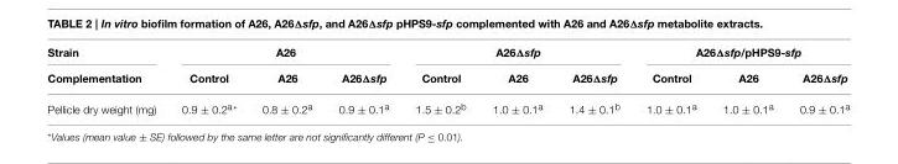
<table><thead><tr><td rowspan="2">Strain Complementation</td><td colspan="3">A26</td><td colspan="3">A26Δsfp</td><td colspan="3">A26Δsfp/pHPS9-sfp</td></tr><tr><td>Control</td><td>A26</td><td>A26Δsfp</td><td>Control</td><td>A26</td><td>A26Δsfp</td><td>Control</td><td>A26</td><td>A26Δsfp</td></tr></thead><tbody><tr><td>Pellicle dry weight (mg)</td><td>0.9 ± 0.2<sup>a*</sup></td><td>0.8 ± 0.2<sup>a</sup></td><td>0.9 ± 0.1<sup>a</sup></td><td>1.5 ± 0.2<sup>b</sup></td><td>1.0 ± 0.1<sup>a</sup></td><td>1.4 ± 0.1<sup>b</sup></td><td>1.0 ± 0.1<sup>a</sup></td><td>1.0 ± 0.1<sup>a</sup></td><td>0.9 ± 0.1<sup>a</sup></td></tr></tbody></table>